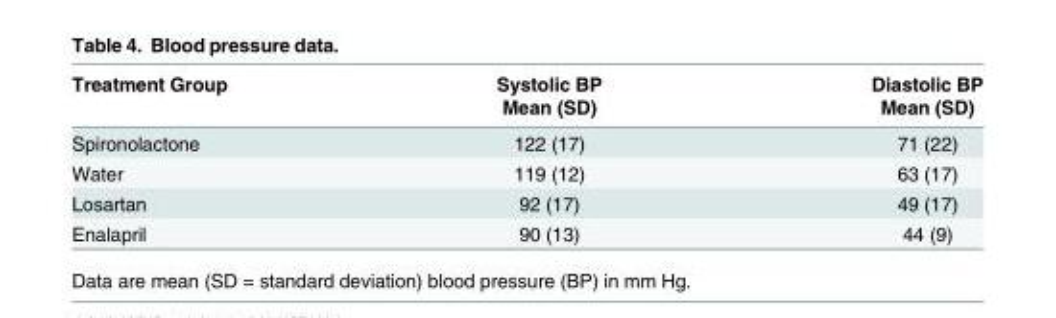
<table><thead><tr><td rowspan="2">Treatment Group</td><td rowspan="2">Systolic BP Mean (SD)</td><td rowspan="2">Diastolic BP Mean (SD)</td></tr><tr></tr></thead><tbody><tr><td>Spironolactone</td><td>122 (17)</td><td>71 (22)</td></tr><tr><td>Water</td><td>119 (12)</td><td>63 (17)</td></tr><tr><td>Losartan</td><td>92 (17)</td><td>49 (17)</td></tr><tr><td>Enalapril</td><td>90 (13)</td><td>44 (9)</td></tr></tbody></table>